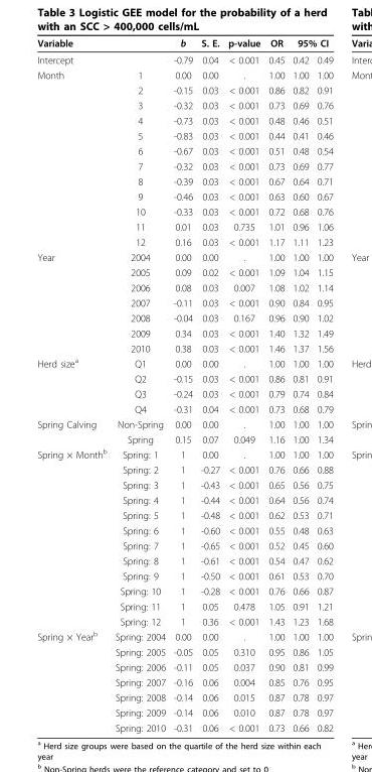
<table><thead><tr><td rowspan="2">Variable Intercept</td><td rowspan="2"></td><td rowspan="2">b -0.79</td><td rowspan="2">S. E. 0.04</td><td rowspan="2">p-value &lt; 0.001</td><td rowspan="2">OR 0.45</td><td colspan="2">95% CI</td></tr><tr><td>0.42</td><td>0.49</td></tr></thead><tbody><tr><td rowspan="12">Month</td><td>1</td><td>0.00</td><td>0.00</td><td>.</td><td>1.00</td><td>1.00</td><td>1.00</td></tr><tr><td>2</td><td>-0.15</td><td>0.03</td><td>&lt; 0.001</td><td>0.86</td><td>0.82</td><td>0.91</td></tr><tr><td>3</td><td>-0.32</td><td>0.03</td><td>&lt; 0.001</td><td>0.73</td><td>0.69</td><td>0.76</td></tr><tr><td>4</td><td>-0.73</td><td>0.03</td><td>&lt; 0.001</td><td>0.48</td><td>0.46</td><td>0.51</td></tr><tr><td>5</td><td>-0.83</td><td>0.03</td><td>&lt; 0.001</td><td>0.44</td><td>0.41</td><td>0.46</td></tr><tr><td>6</td><td>-0.67</td><td>0.03</td><td>&lt; 0.001</td><td>0.51</td><td>0.48</td><td>0.54</td></tr><tr><td>7</td><td>-0.32</td><td>0.03</td><td>&lt; 0.001</td><td>0.73</td><td>0.69</td><td>0.77</td></tr><tr><td>8</td><td>-0.39</td><td>0.03</td><td>&lt; 0.001</td><td>0.67</td><td>0.64</td><td>0.71</td></tr><tr><td>9</td><td>-0.46</td><td>0.03</td><td>&lt; 0.001</td><td>0.63</td><td>0.60</td><td>0.67</td></tr><tr><td>10</td><td>-0.33</td><td>0.03</td><td>&lt; 0.001</td><td>0.72</td><td>0.68</td><td>0.76</td></tr><tr><td>11</td><td>0.01</td><td>0.03</td><td>0.735</td><td>1.01</td><td>0.96</td><td>1.06</td></tr><tr><td>12</td><td>0.16</td><td>0.03</td><td>&lt; 0.001</td><td>1.17</td><td>1.11</td><td>1.23</td></tr><tr><td rowspan="7">Year</td><td>2004</td><td>0.00</td><td>0.00</td><td>.</td><td>1.00</td><td>1.00</td><td>1.00</td></tr><tr><td>2005</td><td>0.09</td><td>0.02</td><td>&lt; 0.001</td><td>1.09</td><td>1.04</td><td>1.15</td></tr><tr><td>2006</td><td>0.08</td><td>0.03</td><td>0.007</td><td>1.08</td><td>1.02</td><td>1.14</td></tr><tr><td>2007</td><td>-0.11</td><td>0.03</td><td>&lt; 0.001</td><td>0.90</td><td>0.84</td><td>0.95</td></tr><tr><td>2008</td><td>-0.04</td><td>0.03</td><td>0.167</td><td>0.96</td><td>0.90</td><td>1.02</td></tr><tr><td>2009</td><td>0.34</td><td>0.03</td><td>&lt; 0.001</td><td>1.40</td><td>1.32</td><td>1.49</td></tr><tr><td>2010</td><td>0.38</td><td>0.03</td><td>&lt; 0.001</td><td>1.46</td><td>1.37</td><td>1.56</td></tr><tr><td rowspan="4">Herd size<sup>a</sup></td><td>Q1</td><td>0.00</td><td>0.00</td><td>.</td><td>1.00</td><td>1.00</td><td>1.00</td></tr><tr><td>Q2</td><td>-0.15</td><td>0.03</td><td>&lt; 0.001</td><td>0.86</td><td>0.81</td><td>0.91</td></tr><tr><td>Q3</td><td>-0.24</td><td>0.03</td><td>&lt; 0.001</td><td>0.79</td><td>0.74</td><td>0.84</td></tr><tr><td>Q4</td><td>-0.31</td><td>0.04</td><td>&lt; 0.001</td><td>0.73</td><td>0.68</td><td>0.79</td></tr><tr><td rowspan="2">Spring Calving</td><td>Non-Spring</td><td>0.00</td><td>0.00</td><td>.</td><td>1.00</td><td>1.00</td><td>1.00</td></tr><tr><td>Spring</td><td>0.15</td><td>0.07</td><td>0.049</td><td>1.16</td><td>1.00</td><td>1.34</td></tr><tr><td rowspan="12">Spring × Month<sup>b</sup></td><td>Spring: 1</td><td>1</td><td>0.00</td><td>.</td><td>1.00</td><td>1.00</td><td>1.00</td></tr><tr><td>Spring: 2</td><td>1</td><td>-0.27</td><td>&lt; 0.001</td><td>0.76</td><td>0.66</td><td>0.88</td></tr><tr><td>Spring: 3</td><td>1</td><td>-0.43</td><td>&lt; 0.001</td><td>0.65</td><td>0.56</td><td>0.75</td></tr><tr><td>Spring: 4</td><td>1</td><td>-0.44</td><td>&lt; 0.001</td><td>0.64</td><td>0.56</td><td>0.74</td></tr><tr><td>Spring: 5</td><td>1</td><td>-0.48</td><td>&lt; 0.001</td><td>0.62</td><td>0.53</td><td>0.71</td></tr><tr><td>Spring: 6</td><td>1</td><td>-0.60</td><td>&lt; 0.001</td><td>0.55</td><td>0.48</td><td>0.63</td></tr><tr><td>Spring: 7</td><td>1</td><td>-0.65</td><td>&lt; 0.001</td><td>0.52</td><td>0.45</td><td>0.60</td></tr><tr><td>Spring: 8</td><td>1</td><td>-0.61</td><td>&lt; 0.001</td><td>0.54</td><td>0.47</td><td>0.62</td></tr><tr><td>Spring: 9</td><td>1</td><td>-0.50</td><td>&lt; 0.001</td><td>0.61</td><td>0.53</td><td>0.70</td></tr><tr><td>Spring: 10</td><td>1</td><td>-0.28</td><td>&lt; 0.001</td><td>0.76</td><td>0.66</td><td>0.87</td></tr><tr><td>Spring: 11</td><td>1</td><td>0.05</td><td>0.478</td><td>1.05</td><td>0.91</td><td>1.21</td></tr><tr><td>Spring: 12</td><td>1</td><td>0.36</td><td>&lt; 0.001</td><td>1.43</td><td>1.23</td><td>1.68</td></tr><tr><td rowspan="7">Spring × Year<sup>b</sup></td><td>Spring: 2004</td><td>0.00</td><td>0.00</td><td>.</td><td>1.00</td><td>1.00</td><td>1.00</td></tr><tr><td>Spring: 2005</td><td>-0.05</td><td>0.05</td><td>0.310</td><td>0.95</td><td>0.86</td><td>1.05</td></tr><tr><td>Spring: 2006</td><td>-0.11</td><td>0.05</td><td>0.037</td><td>0.90</td><td>0.81</td><td>0.99</td></tr><tr><td>Spring: 2007</td><td>-0.16</td><td>0.06</td><td>0.004</td><td>0.85</td><td>0.76</td><td>0.95</td></tr><tr><td>Spring: 2008</td><td>-0.14</td><td>0.06</td><td>0.015</td><td>0.87</td><td>0.78</td><td>0.97</td></tr><tr><td>Spring: 2009</td><td>-0.14</td><td>0.06</td><td>0.010</td><td>0.87</td><td>0.78</td><td>0.97</td></tr><tr><td>Spring: 2010</td><td>-0.31</td><td>0.06</td><td>&lt; 0.001</td><td>0.73</td><td>0.66</td><td>0.82</td></tr></tbody></table>